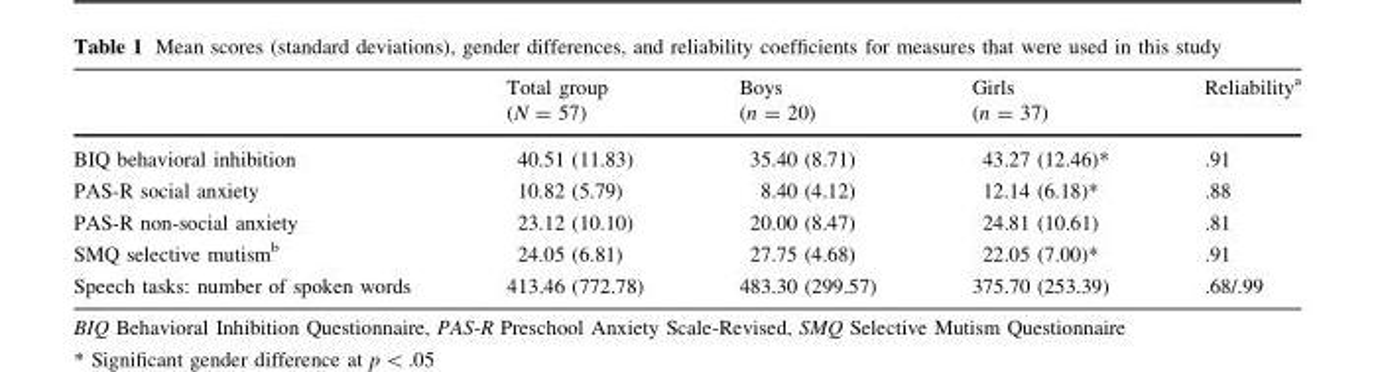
<table><thead><tr><td></td><td>Total group (N = 57)</td><td>Boys (n = 20)</td><td>Girls (n = 37)</td><td>Reliability<sup>a</sup></td></tr></thead><tbody><tr><td>BIQ behavioral inhibition</td><td>40.51 (11.83)</td><td>35.40 (8.71)</td><td>43.27 (12.46)*</td><td>.91</td></tr><tr><td>PAS-R social anxiety</td><td>10.82 (5.79)</td><td>8.40 (4.12)</td><td>12.14 (6.18)*</td><td>.88</td></tr><tr><td>PAS-R non-social anxiety</td><td>23.12 (10.10)</td><td>20.00 (8.47)</td><td>24.81 (10.61)</td><td>.81</td></tr><tr><td>SMQ selective mutism<sup>b</sup></td><td>24.05 (6.81)</td><td>27.75 (4.68)</td><td>22.05 (7.00)*</td><td>.91</td></tr><tr><td>Speech tasks: number of spoken words</td><td>413.46 (772.78)</td><td>483.30 (299.57)</td><td>375.70 (253.39)</td><td>.68/.99</td></tr></tbody></table>